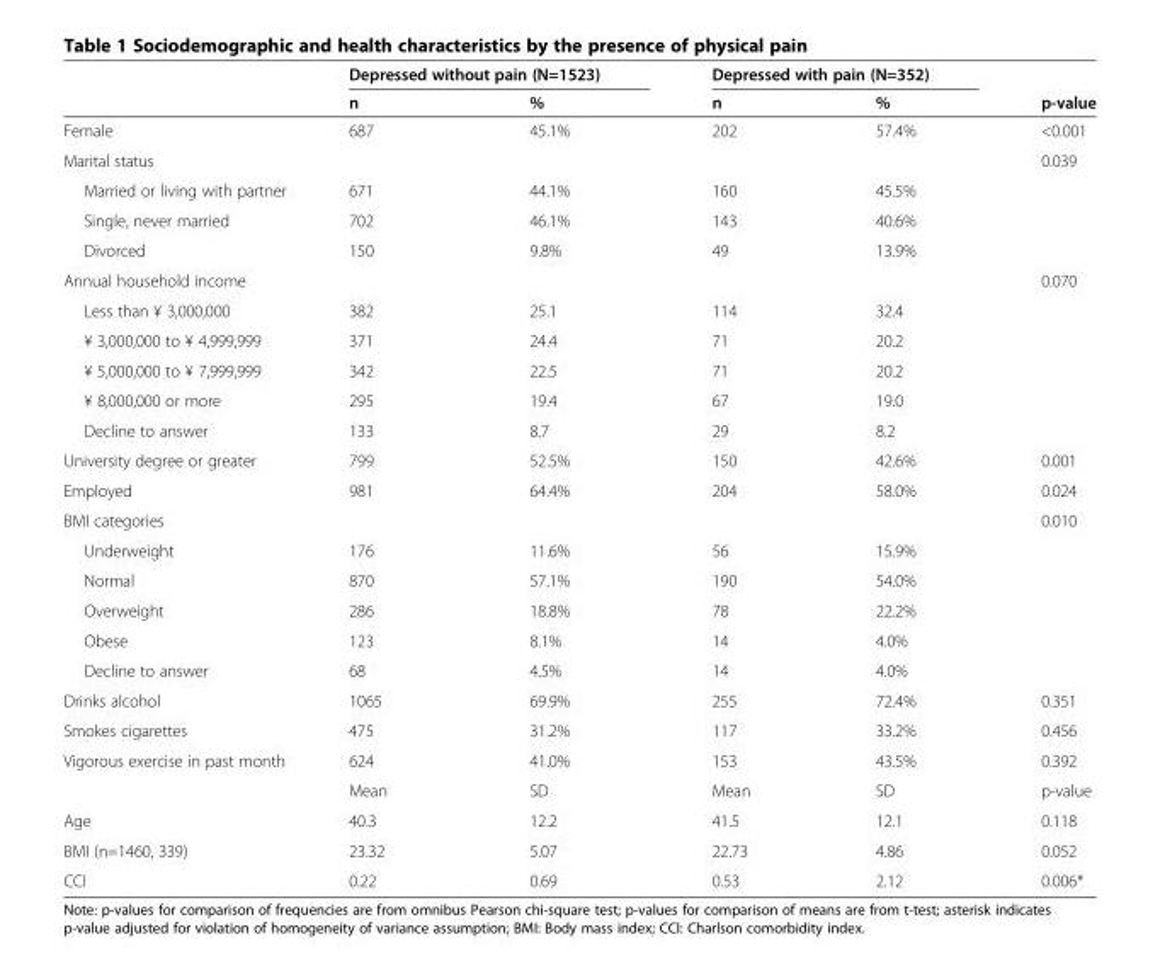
<table><thead><tr><td rowspan="2"></td><td colspan="2">Depressed without pain (N=1523)</td><td colspan="2">Depressed with pain (N=352)</td><td rowspan="2">p-value</td></tr><tr><td>n</td><td>%</td><td>n</td><td>%</td></tr></thead><tbody><tr><td>Female</td><td>687</td><td>45.1%</td><td>202</td><td>57.4%</td><td>&lt;0.001</td></tr><tr><td>Marital status</td><td></td><td></td><td></td><td></td><td>0.039</td></tr><tr><td>Married or living with partner</td><td>671</td><td>44.1%</td><td>160</td><td>45.5%</td><td></td></tr><tr><td>Single, never married</td><td>702</td><td>46.1%</td><td>143</td><td>40.6%</td><td></td></tr><tr><td>Divorced</td><td>150</td><td>9.8%</td><td>49</td><td>13.9%</td><td></td></tr><tr><td>Annual household income</td><td></td><td></td><td></td><td></td><td>0.070</td></tr><tr><td>Less than ¥ 3,000,000</td><td>382</td><td>25.1</td><td>114</td><td>32.4</td><td></td></tr><tr><td>¥ 3,000,000 to ¥ 4,999,999</td><td>371</td><td>24.4</td><td>71</td><td>20.2</td><td></td></tr><tr><td>¥ 5,000,000 to ¥ 7,999,999</td><td>342</td><td>22.5</td><td>71</td><td>20.2</td><td></td></tr><tr><td>¥ 8,000,000 or more</td><td>295</td><td>19.4</td><td>67</td><td>19.0</td><td></td></tr><tr><td>Decline to answer</td><td>133</td><td>8.7</td><td>29</td><td>8.2</td><td></td></tr><tr><td>University degree or greater</td><td>799</td><td>52.5%</td><td>150</td><td>42.6%</td><td>0.001</td></tr><tr><td>Employed</td><td>981</td><td>64.4%</td><td>204</td><td>58.0%</td><td>0.024</td></tr><tr><td>BMI categories</td><td></td><td></td><td></td><td></td><td>0.010</td></tr><tr><td>Underweight</td><td>176</td><td>11.6%</td><td>56</td><td>15.9%</td><td></td></tr><tr><td>Normal</td><td>870</td><td>57.1%</td><td>190</td><td>54.0%</td><td></td></tr><tr><td>Overweight</td><td>286</td><td>18.8%</td><td>78</td><td>22.2%</td><td></td></tr><tr><td>Obese</td><td>123</td><td>8.1%</td><td>14</td><td>4.0%</td><td></td></tr><tr><td>Decline to answer</td><td>68</td><td>4.5%</td><td>14</td><td>4.0%</td><td></td></tr><tr><td>Drinks alcohol</td><td>1065</td><td>69.9%</td><td>255</td><td>72.4%</td><td>0.351</td></tr><tr><td>Smokes cigarettes</td><td>475</td><td>31.2%</td><td>117</td><td>33.2%</td><td>0.456</td></tr><tr><td rowspan="2">Vigorous exercise in past month</td><td>624</td><td>41.0%</td><td>153</td><td>43.5%</td><td>0.392</td></tr><tr><td>Mean</td><td>SD</td><td>Mean</td><td>SD</td><td>p-value</td></tr><tr><td>Age</td><td>40.3</td><td>12.2</td><td>41.5</td><td>12.1</td><td>0.118</td></tr><tr><td>BMI (n=1460, 339)</td><td>23.32</td><td>5.07</td><td>22.73</td><td>4.86</td><td>0.052</td></tr><tr><td>CCI</td><td>0.22</td><td>0.69</td><td>0.53</td><td>2.12</td><td>0.006*</td></tr></tbody></table>